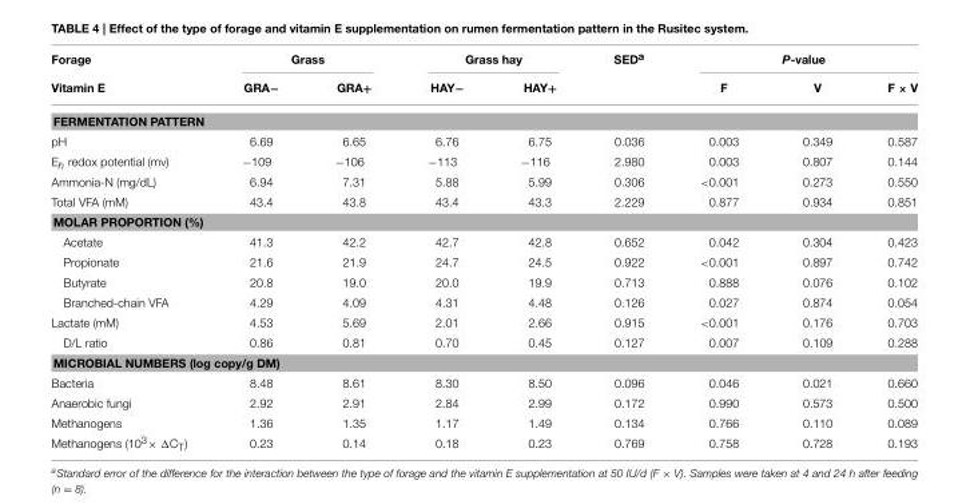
<table><thead><tr><td rowspan="2">Forage Vitamin E</td><td colspan="2">Grass</td><td colspan="2">Grass hay</td><td rowspan="2">SED<sup>a</sup></td><td colspan="3">P-value</td></tr><tr><td>GRA−</td><td>GRA+</td><td>HAY−</td><td>HAY+</td><td>F</td><td>V</td><td>F × V</td></tr></thead><tbody><tr><td colspan="9">FERMENTATION PATTERN</td></tr><tr><td>pH</td><td>6.69</td><td>6.65</td><td>6.76</td><td>6.75</td><td>0.036</td><td>0.003</td><td>0.349</td><td>0.587</td></tr><tr><td>Eh redox potential (mv)</td><td>−109</td><td>−106</td><td>−113</td><td>−116</td><td>2.980</td><td>0.003</td><td>0.807</td><td>0.144</td></tr><tr><td>Ammonia-N (mg/dL)</td><td>6.94</td><td>7.31</td><td>5.88</td><td>5.99</td><td>0.306</td><td>&lt;0.001</td><td>0.273</td><td>0.550</td></tr><tr><td>Total VFA (mM)</td><td>43.4</td><td>43.8</td><td>43.4</td><td>43.3</td><td>2.229</td><td>0.877</td><td>0.934</td><td>0.851</td></tr><tr><td colspan="9">MOLAR PROPORTION (%)</td></tr><tr><td>Acetate</td><td>41.3</td><td>42.2</td><td>42.7</td><td>42.8</td><td>0.652</td><td>0.042</td><td>0.304</td><td>0.423</td></tr><tr><td>Propionate</td><td>21.6</td><td>21.9</td><td>24.7</td><td>24.5</td><td>0.922</td><td>&lt;0.001</td><td>0.897</td><td>0.742</td></tr><tr><td>Butyrate</td><td>20.8</td><td>19.0</td><td>20.0</td><td>19.9</td><td>0.713</td><td>0.888</td><td>0.076</td><td>0.102</td></tr><tr><td>Branched-chain VFA</td><td>4.29</td><td>4.09</td><td>4.31</td><td>4.48</td><td>0.126</td><td>0.027</td><td>0.874</td><td>0.054</td></tr><tr><td>Lactate (mM)</td><td>4.53</td><td>5.69</td><td>2.01</td><td>2.66</td><td>0.915</td><td>&lt;0.001</td><td>0.176</td><td>0.703</td></tr><tr><td>D/L ratio</td><td>0.86</td><td>0.81</td><td>0.70</td><td>0.45</td><td>0.127</td><td>0.007</td><td>0.109</td><td>0.288</td></tr><tr><td colspan="9">MICROBIAL NUMBERS (log copy/g DM)</td></tr><tr><td>Bacteria</td><td>8.48</td><td>8.61</td><td>8.30</td><td>8.50</td><td>0.096</td><td>0.046</td><td>0.021</td><td>0.660</td></tr><tr><td>Anaerobic fungi</td><td>2.92</td><td>2.91</td><td>2.84</td><td>2.99</td><td>0.172</td><td>0.990</td><td>0.573</td><td>0.500</td></tr><tr><td>Methanogens</td><td>1.36</td><td>1.35</td><td>1.17</td><td>1.49</td><td>0.134</td><td>0.766</td><td>0.110</td><td>0.089</td></tr><tr><td>Methanogens (10<sup>3</sup>× ΔC<sub>T</sub>)</td><td>0.23</td><td>0.14</td><td>0.18</td><td>0.23</td><td>0.769</td><td>0.758</td><td>0.728</td><td>0.193</td></tr></tbody></table>